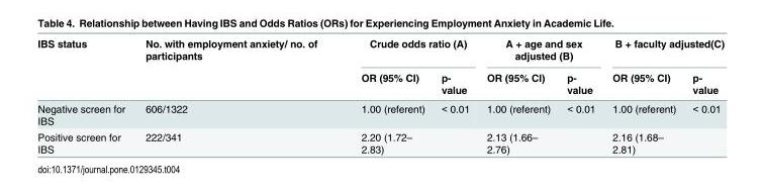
<table><thead><tr><td rowspan="2">IBS status</td><td rowspan="2">No. with employment anxiety/ no. of participants</td><td colspan="2">Crude odds ratio (A)</td><td colspan="2">A + age and sex adjusted (B)</td><td colspan="2">B + faculty adjusted(C)</td></tr><tr><td>OR (95% CI)</td><td>p- value</td><td>OR (95% CI)</td><td>p- value</td><td>OR (95% CI)</td><td>p- value</td></tr></thead><tbody><tr><td>Negative screen for IBS</td><td>606/1322</td><td>1.00 (referent)</td><td>&lt; 0.01</td><td>1.00 (referent)</td><td>&lt; 0.01</td><td>1.00 (referent)</td><td>&lt; 0.01</td></tr><tr><td>Positive screen for IBS</td><td>222/341</td><td>2.20 (1.72– 2.83)</td><td></td><td>2.13 (1.66– 2.76)</td><td></td><td>2.16 (1.68– 2.81)</td><td></td></tr></tbody></table>